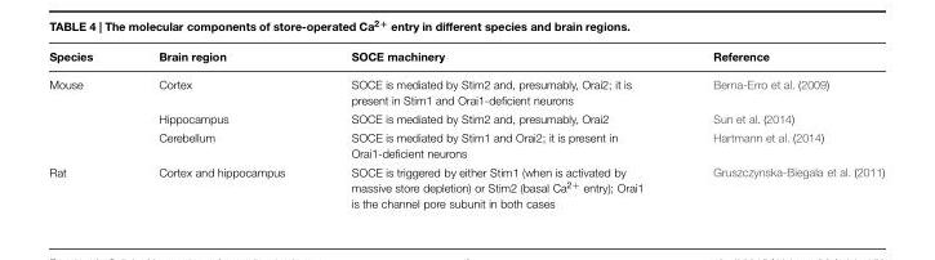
<table><thead><tr><td>Species</td><td>Brain region</td><td>SOCE machinery</td><td>Reference</td></tr></thead><tbody><tr><td rowspan="3">Mouse</td><td>Cortex</td><td>SOCE is mediated by Stim2 and, presumably, Orai2; it is present in Stim1 and Orai1-deficient neurons</td><td>Berna-Erro et al. (2009)</td></tr><tr><td>Hippocampus</td><td>SOCE is mediated by Stim2 and, presumably, Orai2</td><td>Sun et al. (2014)</td></tr><tr><td>Cerebellum</td><td>SOCE is mediated by Stim1 and Orai2; it is present in Orai1-deficient neurons</td><td>Hartmann et al. (2014)</td></tr><tr><td>Rat</td><td>Cortex and hippocampus</td><td>SOCE is triggered by either Stim1 (when is activated by massive store depletion) or Stim2 (basal Ca<sup>2+</sup> entry); Orai1 is the channel pore subunit in both cases</td><td>Gruszczynska-Biegala et al. (2011)</td></tr></tbody></table>